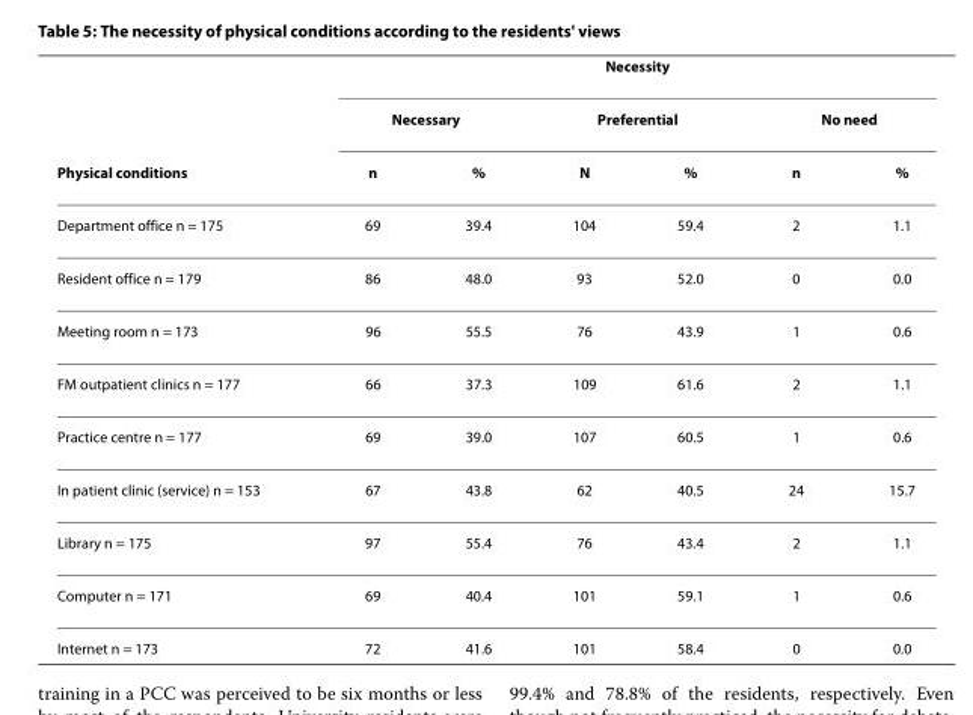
<table><thead><tr><td rowspan="3">Physical conditions</td><td colspan="6">Necessity</td></tr><tr><td colspan="2">Necessary</td><td colspan="2">Preferential</td><td colspan="2">No need</td></tr><tr><td>n</td><td>%</td><td>N</td><td>%</td><td>n</td><td>%</td></tr></thead><tbody><tr><td>Department office n = 175</td><td>69</td><td>39.4</td><td>104</td><td>59.4</td><td>2</td><td>1.1</td></tr><tr><td>Resident office n = 179</td><td>86</td><td>48.0</td><td>93</td><td>52.0</td><td>0</td><td>0.0</td></tr><tr><td>Meeting room n = 173</td><td>96</td><td>55.5</td><td>76</td><td>43.9</td><td>1</td><td>0.6</td></tr><tr><td>FM outpatient clinics n = 177</td><td>66</td><td>37.3</td><td>109</td><td>61.6</td><td>2</td><td>1.1</td></tr><tr><td>Practice centre n = 177</td><td>69</td><td>39.0</td><td>107</td><td>60.5</td><td>1</td><td>0.6</td></tr><tr><td>In patient clinic (service) n = 153</td><td>67</td><td>43.8</td><td>62</td><td>40.5</td><td>24</td><td>15.7</td></tr><tr><td>Library n = 175</td><td>97</td><td>55.4</td><td>76</td><td>43.4</td><td>2</td><td>1.1</td></tr><tr><td>Computer n = 171</td><td>69</td><td>40.4</td><td>101</td><td>59.1</td><td>1</td><td>0.6</td></tr><tr><td>Internet n = 173</td><td>72</td><td>41.6</td><td>101</td><td>58.4</td><td>0</td><td>0.0</td></tr></tbody></table>